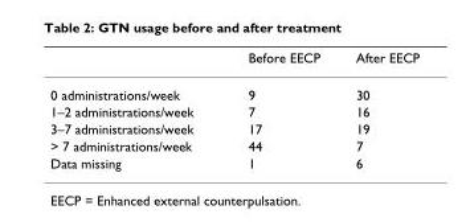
<table><thead><tr><td></td><td>Before EECP</td><td>After EECP</td></tr></thead><tbody><tr><td>0 administrations/week</td><td>9</td><td>30</td></tr><tr><td>1–2 administrations/week</td><td>7</td><td>16</td></tr><tr><td>3–7 administrations/week</td><td>17</td><td>19</td></tr><tr><td>&gt; 7 administrations/week</td><td>44</td><td>7</td></tr><tr><td>Data missing</td><td>1</td><td>6</td></tr></tbody></table>